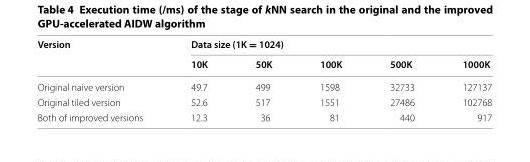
<table><thead><tr><td rowspan="2">Version</td><td colspan="5">Data size (1K = 1024)</td></tr><tr><td>10K</td><td>50K</td><td>100K</td><td>500K</td><td>1000K</td></tr></thead><tbody><tr><td>Original naive version</td><td>49.7</td><td>499</td><td>1598</td><td>32733</td><td>127137</td></tr><tr><td>Original tiled version</td><td>52.6</td><td>517</td><td>1551</td><td>27486</td><td>102768</td></tr><tr><td>Both of improved versions</td><td>12.3</td><td>36</td><td>81</td><td>440</td><td>917</td></tr></tbody></table>